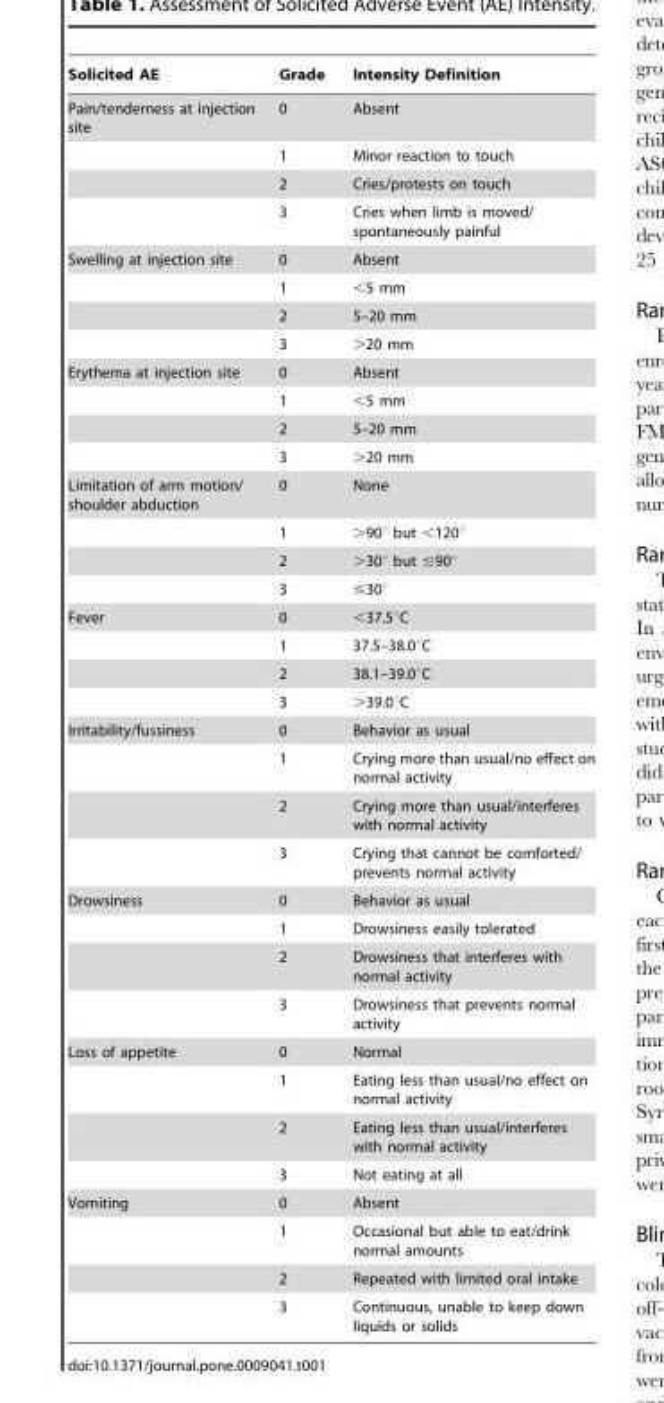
<table><thead><tr><td>Solicited AE</td><td>Grade</td><td>Intensity Definition</td></tr></thead><tbody><tr><td rowspan="4">Pain/tenderness at injection site</td><td>0</td><td>Absent</td></tr><tr><td>1</td><td>Minor reaction to touch</td></tr><tr><td>2</td><td>Cries/protests on touch</td></tr><tr><td>3</td><td>Cries when limb is moved/ spontaneously painful</td></tr><tr><td rowspan="4">Swelling at injection site</td><td>0</td><td>Absent</td></tr><tr><td>1</td><td>&lt;5 mm</td></tr><tr><td>2</td><td>5–20 mm</td></tr><tr><td>3</td><td>&gt;20 mm</td></tr><tr><td rowspan="4">Erythema at injection site</td><td>0</td><td>Absent</td></tr><tr><td>1</td><td>&lt;5 mm</td></tr><tr><td>2</td><td>5–20 mm</td></tr><tr><td>3</td><td>&gt;20 mm</td></tr><tr><td rowspan="4">Limitation of arm motion/ shoulder abduction</td><td>0</td><td>None</td></tr><tr><td>1</td><td>&gt;90° but &lt;120°</td></tr><tr><td>2</td><td>&gt;30° but ≤90°</td></tr><tr><td>3</td><td>≤30°</td></tr><tr><td rowspan="4">Fever</td><td>0</td><td>&lt;37.5°C</td></tr><tr><td>1</td><td>37.5–38.0°C</td></tr><tr><td>2</td><td>38.1–39.0°C</td></tr><tr><td>3</td><td>&gt;39.0°C</td></tr><tr><td rowspan="4">Irritability/fussiness</td><td>0</td><td>Behavior as usual</td></tr><tr><td>1</td><td>Crying more than usual/no effect on normal activity</td></tr><tr><td>2</td><td>Crying more than usual/interferes with normal activity</td></tr><tr><td>3</td><td>Crying that cannot be comforted/ prevents normal activity</td></tr><tr><td rowspan="4">Drowsiness</td><td>0</td><td>Behavior as usual</td></tr><tr><td>1</td><td>Drowsiness easily tolerated</td></tr><tr><td>2</td><td>Drowsiness that interferes with normal activity</td></tr><tr><td>3</td><td>Drowsiness that prevents normal activity</td></tr><tr><td rowspan="4">Loss of appetite</td><td>0</td><td>Normal</td></tr><tr><td>1</td><td>Eating less than usual/no effect on normal activity</td></tr><tr><td>2</td><td>Eating less than usual/interferes with normal activity</td></tr><tr><td>3</td><td>Not eating at all</td></tr><tr><td rowspan="4">Vomiting</td><td>0</td><td>Absent</td></tr><tr><td>1</td><td>Occasional but able to eat/drink normal amounts</td></tr><tr><td>2</td><td>Repeated with limited oral intake</td></tr><tr><td>3</td><td>Continuous, unable to keep down liquids or solids</td></tr></tbody></table>